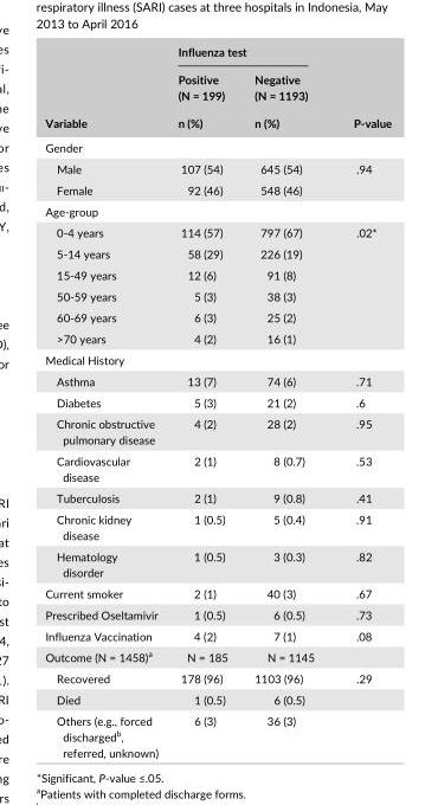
<table><thead><tr><td rowspan="3">Variable</td><td colspan="2">Influenza test</td><td rowspan="3">P- value</td></tr><tr><td rowspan="2">Positive (N = 199) n (%)</td><td rowspan="2">Negative (N = 1193) n (%)</td></tr><tr></tr></thead><tbody><tr><td colspan="4">Gender</td></tr><tr><td>Male</td><td>107 (54)</td><td>645 (54)</td><td>.94</td></tr><tr><td>Female</td><td>92 (46)</td><td>548 (46)</td><td></td></tr><tr><td colspan="4">Age- group</td></tr><tr><td>0- 4 years</td><td>114 (57)</td><td>797 (67)</td><td>.02*</td></tr><tr><td>5- 14 years</td><td>58 (29)</td><td>226 (19)</td><td></td></tr><tr><td>15- 49 years</td><td>12 (6)</td><td>91 (8)</td><td></td></tr><tr><td>50- 59 years</td><td>5 (3)</td><td>38 (3)</td><td></td></tr><tr><td>60- 69 years</td><td>6 (3)</td><td>25 (2)</td><td></td></tr><tr><td>&gt;70 years</td><td>4 (2)</td><td>16 (1)</td><td></td></tr><tr><td colspan="4">Medical History</td></tr><tr><td>Asthma</td><td>13 (7)</td><td>74 (6)</td><td>.71</td></tr><tr><td>Diabetes</td><td>5 (3)</td><td>21 (2)</td><td>.6</td></tr><tr><td>Chronic obstructive pulmonary disease</td><td>4 (2)</td><td>28 (2)</td><td>.95</td></tr><tr><td>Cardiovascular disease</td><td>2 (1)</td><td>8 (0.7)</td><td>.53</td></tr><tr><td>Tuberculosis</td><td>2 (1)</td><td>9 (0.8)</td><td>.41</td></tr><tr><td>Chronic kidney disease</td><td>1 (0.5)</td><td>5 (0.4)</td><td>.91</td></tr><tr><td>Hematology disorder</td><td>1 (0.5)</td><td>3 (0.3)</td><td>.82</td></tr><tr><td>Current smoker</td><td>2 (1)</td><td>40 (3)</td><td>.67</td></tr><tr><td>Prescribed Oseltamivir</td><td>1 (0.5)</td><td>6 (0.5)</td><td>.73</td></tr><tr><td>Influenza Vaccination</td><td>4 (2)</td><td>7 (1)</td><td>.08</td></tr><tr><td>Outcome (N = 1458)a</td><td>N = 185</td><td>N = 1145</td><td></td></tr><tr><td>Recovered</td><td>178 (96)</td><td>1103 (96)</td><td>.29</td></tr><tr><td>Died</td><td>1 (0.5)</td><td>6 (0.5)</td><td></td></tr><tr><td>Others (e.g., forced dischargedb, referred, unknown)</td><td>6 (3)</td><td>36 (3)</td><td></td></tr></tbody></table>